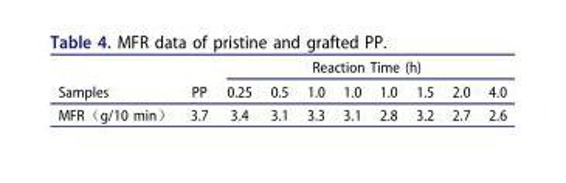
<table><thead><tr><td rowspan="2">Samples</td><td rowspan="2">PP</td><td colspan="8">Reaction Time (h)</td></tr><tr><td>0.25</td><td>0.5</td><td>1.0</td><td>1.0</td><td>1.0</td><td>1.5</td><td>2.0</td><td>4.0</td></tr></thead><tbody><tr><td>MFR（g/10 min）</td><td>3.7</td><td>3.4</td><td>3.1</td><td>3.3</td><td>3.1</td><td>2.8</td><td>3.2</td><td>2.7</td><td>2.6</td></tr></tbody></table>